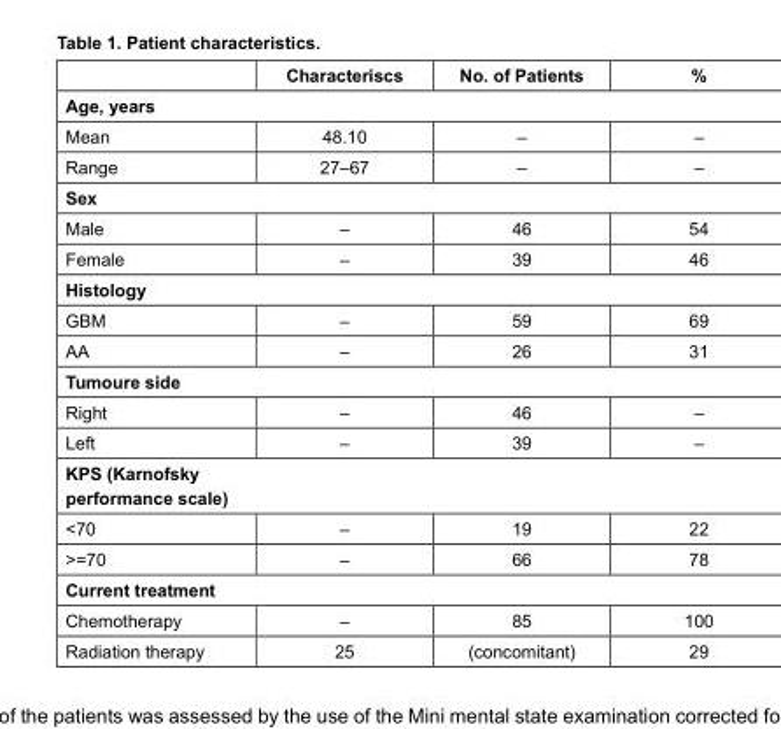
<table><thead><tr><td></td><td>Characteriscs</td><td>No. of Patients</td><td>%</td></tr></thead><tbody><tr><td colspan="4">Age, years</td></tr><tr><td>Mean</td><td>48.10</td><td>–</td><td>–</td></tr><tr><td>Range</td><td>27–67</td><td>–</td><td>–</td></tr><tr><td colspan="4">Sex</td></tr><tr><td>Male</td><td>–</td><td>46</td><td>54</td></tr><tr><td>Female</td><td>–</td><td>39</td><td>46</td></tr><tr><td colspan="4">Histology</td></tr><tr><td>GBM</td><td>–</td><td>59</td><td>69</td></tr><tr><td>AA</td><td>–</td><td>26</td><td>31</td></tr><tr><td colspan="4">Tumoure side</td></tr><tr><td>Right</td><td>–</td><td>46</td><td>–</td></tr><tr><td>Left</td><td>–</td><td>39</td><td>–</td></tr><tr><td colspan="4">KPS (Karnofsky performance scale)</td></tr><tr><td>&lt;70</td><td>–</td><td>19</td><td>22</td></tr><tr><td>&gt;=70</td><td>–</td><td>66</td><td>78</td></tr><tr><td colspan="4">Current treatment</td></tr><tr><td>Chemotherapy</td><td>–</td><td>85</td><td>100</td></tr><tr><td>Radiation therapy</td><td>25</td><td>(concomitant)</td><td>29</td></tr></tbody></table>